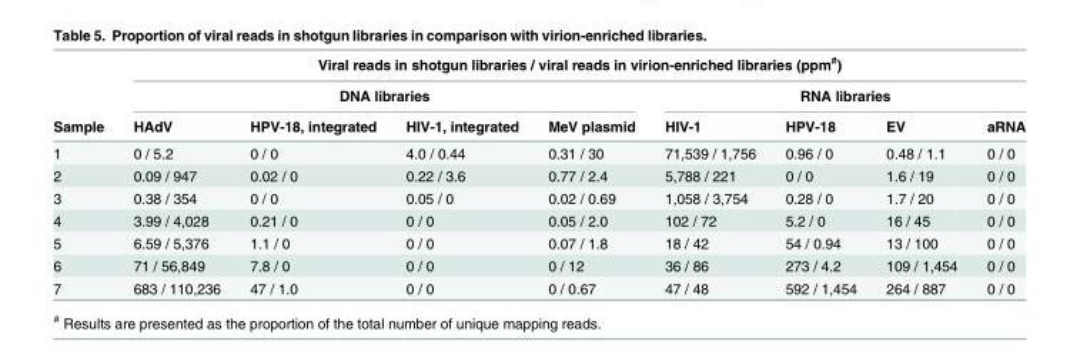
<table><thead><tr><td rowspan="3">Sample</td><td colspan="8">Viral reads in shotgun libraries / viral reads in virion-enriched libraries (ppm<sup>#</sup>)</td></tr><tr><td colspan="4">DNA libraries</td><td colspan="4">RNA libraries</td></tr><tr><td>HAdV</td><td>HPV-18, integrated</td><td>HIV-1, integrated</td><td>MeV plasmid</td><td>HIV-1</td><td>HPV-18</td><td>EV</td><td>aRNA</td></tr></thead><tbody><tr><td>1</td><td>0 / 5.2</td><td>0 / 0</td><td>4.0 / 0.44</td><td>0.31 / 30</td><td>71,539 / 1,756</td><td>0.96 / 0</td><td>0.48 / 1.1</td><td>0 / 0</td></tr><tr><td>2</td><td>0.09 / 947</td><td>0.02 / 0</td><td>0.22 / 3.6</td><td>0.77 / 2.4</td><td>5,788 / 221</td><td>0 / 0</td><td>1.6 / 19</td><td>0 / 0</td></tr><tr><td>3</td><td>0.38 / 354</td><td>0 / 0</td><td>0.05 / 0</td><td>0.02 / 0.69</td><td>1,058 / 3,754</td><td>0.28 / 0</td><td>1.7 / 20</td><td>0 / 0</td></tr><tr><td>4</td><td>3.99 / 4,028</td><td>0.21 / 0</td><td>0 / 0</td><td>0.05 / 2.0</td><td>102 / 72</td><td>5.2 / 0</td><td>16 / 45</td><td>0 / 0</td></tr><tr><td>5</td><td>6.59 / 5,376</td><td>1.1 / 0</td><td>0 / 0</td><td>0.07 / 1.8</td><td>18 / 42</td><td>54 / 0.94</td><td>13 / 100</td><td>0 / 0</td></tr><tr><td>6</td><td>71 / 56,849</td><td>7.8 / 0</td><td>0 / 0</td><td>0 / 12</td><td>36 / 86</td><td>273 / 4.2</td><td>109 / 1,454</td><td>0 / 0</td></tr><tr><td>7</td><td>683 / 110,236</td><td>47 / 1.0</td><td>0 / 0</td><td>0 / 0.67</td><td>47 / 48</td><td>592 / 1,454</td><td>264 / 887</td><td>0 / 0</td></tr></tbody></table>